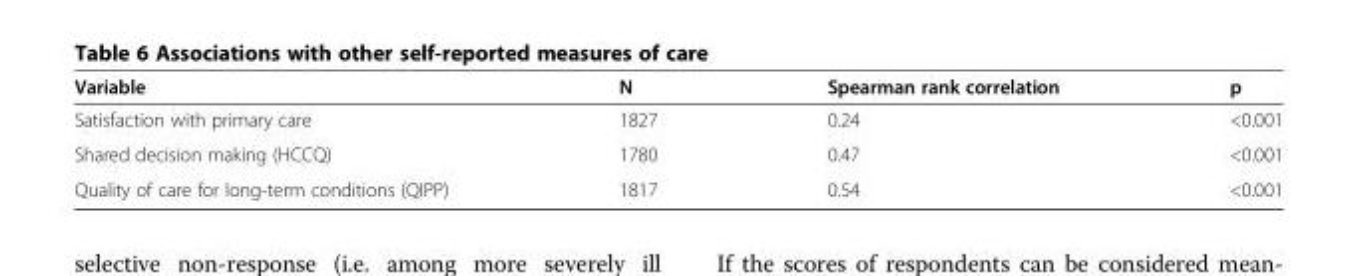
<table><thead><tr><td>Variable</td><td>N</td><td>Spearman rank correlation</td><td>p</td></tr></thead><tbody><tr><td>Satisfaction with primary care</td><td>1827</td><td>0.24</td><td>&lt;0.001</td></tr><tr><td>Shared decision making (HCCQ)</td><td>1780</td><td>0.47</td><td>&lt;0.001</td></tr><tr><td>Quality of care for long-term conditions (QIPP)</td><td>1817</td><td>0.54</td><td>&lt;0.001</td></tr></tbody></table>